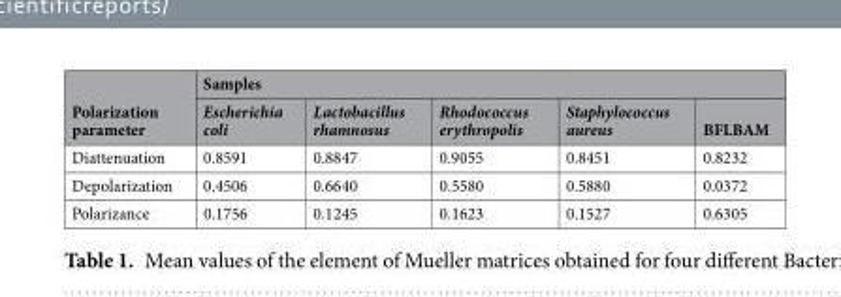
<table><thead><tr><td rowspan="2">Polarization parameter</td><td colspan="5">Samples</td></tr><tr><td>Escherichia coli</td><td>Lactobacillus rhamnosus</td><td>Rhodococcus erythropolis</td><td>Staphylococcus aureus</td><td>BFLBAM</td></tr></thead><tbody><tr><td>Diattenuation</td><td>0.8591</td><td>0.8847</td><td>0.9055</td><td>0.8451</td><td>0.8232</td></tr><tr><td>Depolarization</td><td>0.4506</td><td>0.6640</td><td>0.5580</td><td>0.5880</td><td>0.0372</td></tr><tr><td>Polarizance</td><td>0.1756</td><td>0.1245</td><td>0.1623</td><td>0.1527</td><td>0.6305</td></tr></tbody></table>